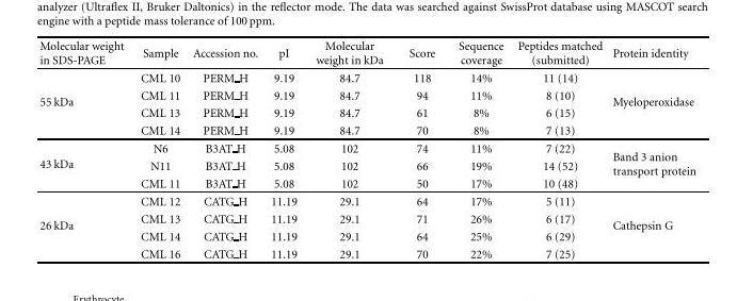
<table><thead><tr><td>Molecular weight in SDS-PAGE</td><td>Sample</td><td>Accession no.</td><td>pI</td><td>Molecular weight in kDa</td><td>Score</td><td>Sequence coverage</td><td>Peptides matched (submitted)</td><td>Protein identity</td></tr></thead><tbody><tr><td rowspan="4">55 kDa</td><td>CML 10</td><td>PERM H</td><td>9.19</td><td>84.7</td><td>118</td><td>14%</td><td>11 (14)</td><td rowspan="4">Myeloperoxidase</td></tr><tr><td>CML 11</td><td>PERM H</td><td>9.19</td><td>84.7</td><td>94</td><td>11%</td><td>8 (10)</td></tr><tr><td>CML 13</td><td>PERM H</td><td>9.19</td><td>84.7</td><td>61</td><td>8%</td><td>6 (15)</td></tr><tr><td>CML 14</td><td>PERM H</td><td>9.19</td><td>84.7</td><td>70</td><td>8%</td><td>7 (13)</td></tr><tr><td rowspan="3">43 kDa</td><td>N6</td><td>B3AT H</td><td>5.08</td><td>102</td><td>74</td><td>11%</td><td>7 (22)</td><td rowspan="3">Band 3 anion transport protein</td></tr><tr><td>N11</td><td>B3AT H</td><td>5.08</td><td>102</td><td>66</td><td>19%</td><td>14 (52)</td></tr><tr><td>CML 11</td><td>B3AT H</td><td>5.08</td><td>102</td><td>50</td><td>17%</td><td>10 (48)</td></tr><tr><td rowspan="4">26 kDa</td><td>CML 12</td><td>CATG H</td><td>11.19</td><td>29.1</td><td>64</td><td>17%</td><td>5 (11)</td><td rowspan="4">Cathepsin G</td></tr><tr><td>CML 13</td><td>CATG H</td><td>11.19</td><td>29.1</td><td>71</td><td>26%</td><td>6 (17)</td></tr><tr><td>CML 14</td><td>CATG H</td><td>11.19</td><td>29.1</td><td>64</td><td>25%</td><td>6 (29)</td></tr><tr><td>CML 16</td><td>CATG H</td><td>11.19</td><td>29.1</td><td>70</td><td>22%</td><td>7 (25)</td></tr></tbody></table>